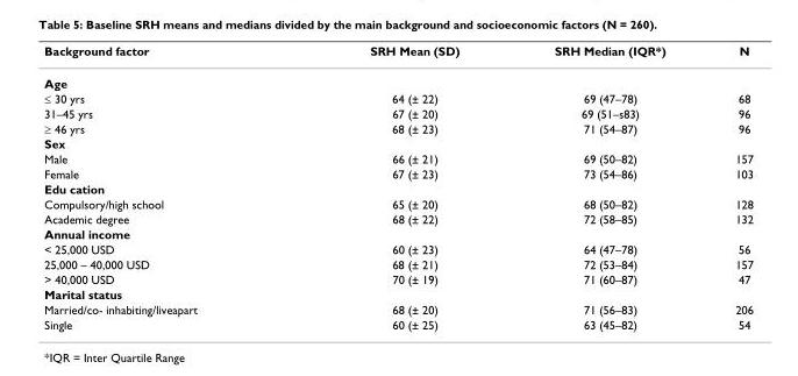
<table><thead><tr><td>Background factor</td><td>SRH Mean (SD)</td><td>SRH Median (IQR*)</td><td>N</td></tr></thead><tbody><tr><td colspan="4">Age</td></tr><tr><td>≤ 30 yrs</td><td>64 (± 22)</td><td>69 (47–78)</td><td>68</td></tr><tr><td>31–45 yrs</td><td>67 (± 20)</td><td>69 (51–s83)</td><td>96</td></tr><tr><td>≥ 46 yrs</td><td>68 (± 23)</td><td>71 (54–87)</td><td>96</td></tr><tr><td colspan="4">Sex</td></tr><tr><td>Male</td><td>66 (± 21)</td><td>69 (50–82)</td><td>157</td></tr><tr><td>Female</td><td>67 (± 23)</td><td>73 (54–86)</td><td>103</td></tr><tr><td colspan="4">Edu cation</td></tr><tr><td>Compulsory/high school</td><td>65 (± 20)</td><td>68 (50–82)</td><td>128</td></tr><tr><td>Academic degree</td><td>68 (± 22)</td><td>72 (58–85)</td><td>132</td></tr><tr><td colspan="4">Annual income</td></tr><tr><td>&lt; 25,000 USD</td><td>60 (± 23)</td><td>64 (47–78)</td><td>56</td></tr><tr><td>25,000 – 40,000 USD</td><td>68 (± 21)</td><td>72 (53–84)</td><td>157</td></tr><tr><td>&gt; 40,000 USD</td><td>70 (± 19)</td><td>71 (60–87)</td><td>47</td></tr><tr><td colspan="4">Marital status</td></tr><tr><td>Married/co- inhabiting/liveapart</td><td>68 (± 20)</td><td>71 (56–83)</td><td>206</td></tr><tr><td>Single</td><td>60 (± 25)</td><td>63 (45–82)</td><td>54</td></tr></tbody></table>